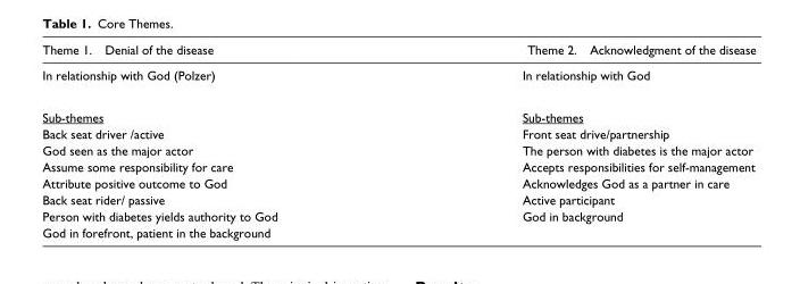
<table><thead><tr><td>Theme 1. Denial of the disease</td><td>Theme 2. Acknowledgment of the disease</td></tr></thead><tbody><tr><td>In relationship with God (Polzer)</td><td>In relationship with God</td></tr><tr><td>Sub-themes</td><td>Sub-themes</td></tr><tr><td>Back seat driver /active</td><td>Front seat drive/partnership</td></tr><tr><td>God seen as the major actor</td><td>The person with diabetes is the major actor</td></tr><tr><td>Assume some responsibility for care</td><td>Accepts responsibilities for self-management</td></tr><tr><td>Attribute positive outcome to God</td><td>Acknowledges God as a partner in care</td></tr><tr><td>Back seat rider/ passive</td><td>Active participant</td></tr><tr><td>Person with diabetes yields authority to God</td><td>God in background</td></tr><tr><td>God in forefront, patient in the background</td><td></td></tr></tbody></table>